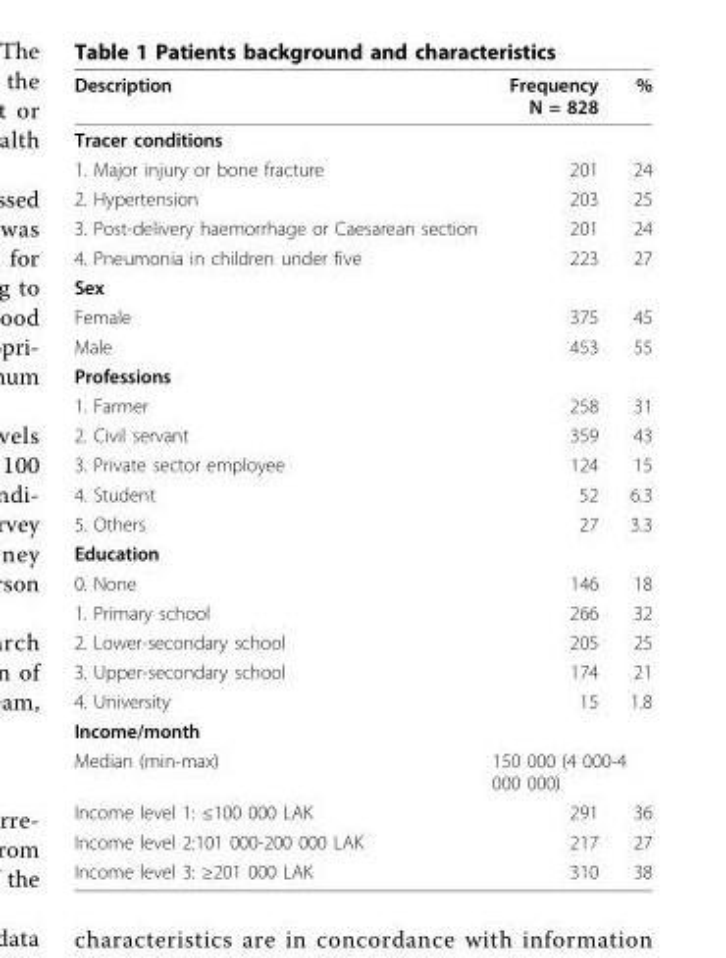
<table><thead><tr><td>Description</td><td>Frequency N = 828</td><td>%</td></tr></thead><tbody><tr><td colspan="3">Tracer conditions</td></tr><tr><td>1. Major injury or bone fracture</td><td>201</td><td>24</td></tr><tr><td>2. Hypertension</td><td>203</td><td>25</td></tr><tr><td>3. Post-delivery haemorrhage or Caesarean section</td><td>201</td><td>24</td></tr><tr><td>4. Pneumonia in children under five</td><td>223</td><td>27</td></tr><tr><td colspan="3">Sex</td></tr><tr><td>Female</td><td>375</td><td>45</td></tr><tr><td>Male</td><td>453</td><td>55</td></tr><tr><td colspan="3">Professions</td></tr><tr><td>1. Farmer</td><td>258</td><td>31</td></tr><tr><td>2. Civil servant</td><td>359</td><td>43</td></tr><tr><td>3. Private sector employee</td><td>124</td><td>15</td></tr><tr><td>4. Student</td><td>52</td><td>6.3</td></tr><tr><td>5. Others</td><td>27</td><td>3.3</td></tr><tr><td colspan="3">Education</td></tr><tr><td>0. None</td><td>146</td><td>18</td></tr><tr><td>1. Primary school</td><td>266</td><td>32</td></tr><tr><td>2. Lower-secondary school</td><td>205</td><td>25</td></tr><tr><td>3. Upper-secondary school</td><td>174</td><td>21</td></tr><tr><td>4. University</td><td>15</td><td>1.8</td></tr><tr><td colspan="3">Income/month</td></tr><tr><td>Median (min-max)</td><td colspan="2">150 000 (4 000-4 000 000)</td></tr><tr><td>Income level 1: ≤100 000 LAK</td><td>291</td><td>36</td></tr><tr><td>Income level 2:101 000-200 000 LAK</td><td>217</td><td>27</td></tr><tr><td>Income level 3: ≥201 000 LAK</td><td>310</td><td>38</td></tr></tbody></table>